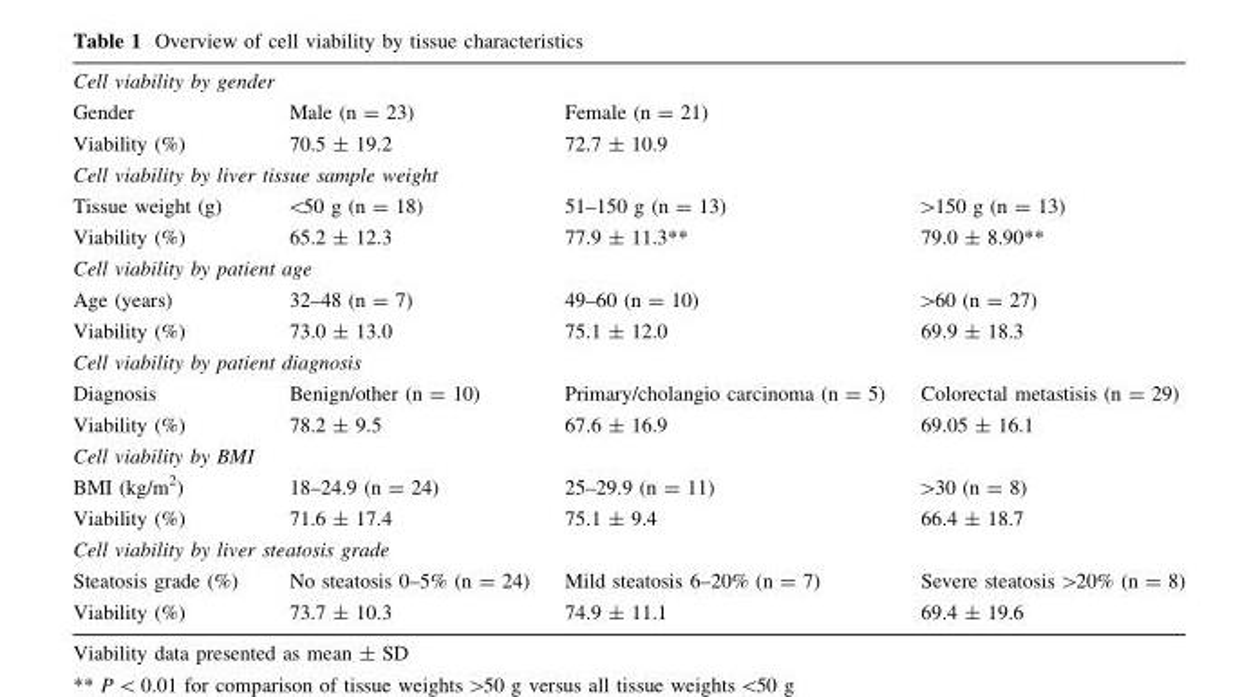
<table><tbody><tr><td colspan="4">Cell viability by gender</td></tr><tr><td>Gender</td><td>Male (n = 23)</td><td>Female (n = 21)</td><td></td></tr><tr><td>Viability (%)</td><td>70.5 ± 19.2</td><td>72.7 ± 10.9</td><td></td></tr><tr><td colspan="4">Cell viability by liver tissue sample weight</td></tr><tr><td>Tissue weight (g)</td><td>&lt;50 g (n = 18)</td><td>51–150 g (n = 13)</td><td>&gt;150 g (n = 13)</td></tr><tr><td>Viability (%)</td><td>65.2 ± 12.3</td><td>77.9 ± 11.3**</td><td>79.0 ± 8.90**</td></tr><tr><td colspan="4">Cell viability by patient age</td></tr><tr><td>Age (years)</td><td>32–48 (n = 7)</td><td>49–60 (n = 10)</td><td>&gt;60 (n = 27)</td></tr><tr><td>Viability (%)</td><td>73.0 ± 13.0</td><td>75.1 ± 12.0</td><td>69.9 ± 18.3</td></tr><tr><td colspan="4">Cell viability by patient diagnosis</td></tr><tr><td>Diagnosis</td><td>Benign/other (n = 10)</td><td>Primary/cholangio carcinoma (n = 5)</td><td>Colorectal metastisis (n = 29)</td></tr><tr><td>Viability (%)</td><td>78.2 ± 9.5</td><td>67.6 ± 16.9</td><td>69.05 ± 16.1</td></tr><tr><td colspan="4">Cell viability by BMI</td></tr><tr><td>BMI (kg/m<sup>2</sup>)</td><td>18–24.9 (n = 24)</td><td>25–29.9 (n = 11)</td><td>&gt;30 (n = 8)</td></tr><tr><td>Viability (%)</td><td>71.6 ± 17.4</td><td>75.1 ± 9.4</td><td>66.4 ± 18.7</td></tr><tr><td colspan="4">Cell viability by liver steatosis grade</td></tr><tr><td>Steatosis grade (%)</td><td>No steatosis 0–5% (n = 24)</td><td>Mild steatosis 6–20% (n = 7)</td><td>Severe steatosis &gt;20% (n = 8)</td></tr><tr><td>Viability (%)</td><td>73.7 ± 10.3</td><td>74.9 ± 11.1</td><td>69.4 ± 19.6</td></tr></tbody></table>